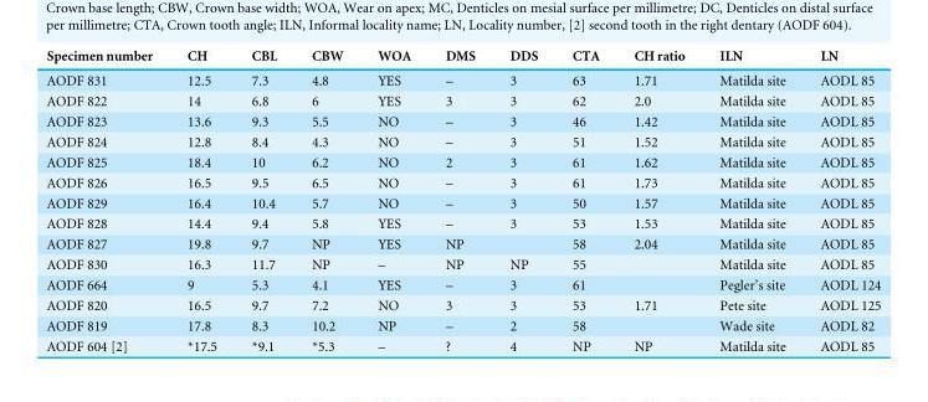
<table><thead><tr><td>Specimen number</td><td>CH</td><td>CBL</td><td>CBW</td><td>WOA</td><td>DMS</td><td>DDS</td><td>CTA</td><td>CH ratio</td><td>ILN</td><td>LN</td></tr></thead><tbody><tr><td>AODF 831</td><td>12.5</td><td>7.3</td><td>4.8</td><td>YES</td><td>–</td><td>3</td><td>63</td><td>1.71</td><td>Matilda site</td><td>AODL 85</td></tr><tr><td>AODF 822</td><td>14</td><td>6.8</td><td>6</td><td>YES</td><td>3</td><td>3</td><td>62</td><td>2.0</td><td>Matilda site</td><td>AODL 85</td></tr><tr><td>AODF 823</td><td>13.6</td><td>9.3</td><td>5.5</td><td>NO</td><td>–</td><td>3</td><td>46</td><td>1.42</td><td>Matilda site</td><td>AODL 85</td></tr><tr><td>AODF 824</td><td>12.8</td><td>8.4</td><td>4.3</td><td>NO</td><td>–</td><td>3</td><td>51</td><td>1.52</td><td>Matilda site</td><td>AODL 85</td></tr><tr><td>AODF 825</td><td>18.4</td><td>10</td><td>6.2</td><td>NO</td><td>2</td><td>3</td><td>61</td><td>1.62</td><td>Matilda site</td><td>AODL 85</td></tr><tr><td>AODF 826</td><td>16.5</td><td>9.5</td><td>6.5</td><td>NO</td><td>–</td><td>3</td><td>61</td><td>1.73</td><td>Matilda site</td><td>AODL 85</td></tr><tr><td>AODF 829</td><td>16.4</td><td>10.4</td><td>5.7</td><td>NO</td><td>–</td><td>3</td><td>50</td><td>1.57</td><td>Matilda site</td><td>AODL 85</td></tr><tr><td>AODF 828</td><td>14.4</td><td>9.4</td><td>5.8</td><td>YES</td><td>–</td><td>3</td><td>53</td><td>1.53</td><td>Matilda site</td><td>AODL 85</td></tr><tr><td>AODF 827</td><td>19.8</td><td>9.7</td><td>NP</td><td>YES</td><td>NP</td><td></td><td>58</td><td>2.04</td><td>Matilda site</td><td>AODL 85</td></tr><tr><td>AODF 830</td><td>16.3</td><td>11.7</td><td>NP</td><td>–</td><td>NP</td><td>NP</td><td>55</td><td></td><td>Matilda site</td><td>AODL 85</td></tr><tr><td>AODF 664</td><td>9</td><td>5.3</td><td>4.1</td><td>YES</td><td>–</td><td>3</td><td>61</td><td></td><td>Pegler’s site</td><td>AODL 124</td></tr><tr><td>AODF 820</td><td>16.5</td><td>9.7</td><td>7.2</td><td>NO</td><td>3</td><td>3</td><td>53</td><td>1.71</td><td>Pete site</td><td>AODL 125</td></tr><tr><td>AODF 819</td><td>17.8</td><td>8.3</td><td>10.2</td><td>NP</td><td>–</td><td>2</td><td>58</td><td></td><td>Wade site</td><td>AODL 82</td></tr><tr><td>AODF 604 [2]</td><td>*17.5</td><td>*9.1</td><td>*5.3</td><td>–</td><td>?</td><td>4</td><td>NP</td><td>NP</td><td>Matilda site</td><td>AODL 85</td></tr></tbody></table>